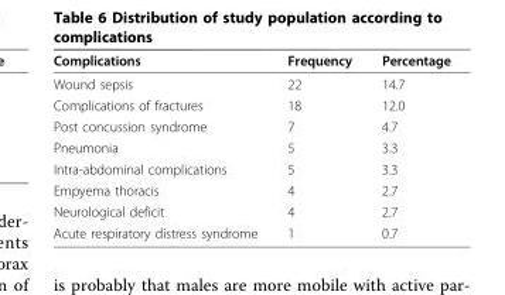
<table><thead><tr><td>Complications</td><td>Frequency</td><td>Percentage</td></tr></thead><tbody><tr><td>Wound sepsis</td><td>22</td><td>14.7</td></tr><tr><td>Complications of fractures</td><td>18</td><td>12.0</td></tr><tr><td>Post concussion syndrome</td><td>7</td><td>4.7</td></tr><tr><td>Pneumonia</td><td>5</td><td>3.3</td></tr><tr><td>Intra-abdominal complications</td><td>5</td><td>3.3</td></tr><tr><td>Empyema thoracis</td><td>4</td><td>2.7</td></tr><tr><td>Neurological deficit</td><td>4</td><td>2.7</td></tr><tr><td>Acute respiratory distress syndrome</td><td>1</td><td>0.7</td></tr></tbody></table>